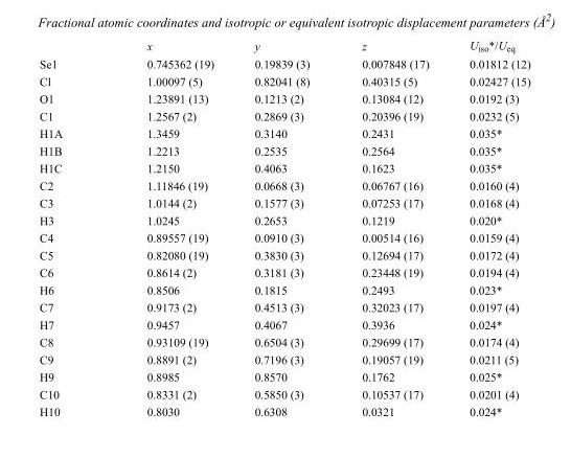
<table><thead><tr><td></td><td>x</td><td>y</td><td>z</td><td>U<sub>iso</sub>*/U<sub>eq</sub></td></tr></thead><tbody><tr><td>Se1</td><td>0.745362 (19)</td><td>0.19839 (3)</td><td>0.007848 (17)</td><td>0.01812 (12)</td></tr><tr><td>Cl</td><td>1.00097 (5)</td><td>0.82041 (8)</td><td>0.40315 (5)</td><td>0.02427 (15)</td></tr><tr><td>O1</td><td>1.23891 (13)</td><td>0.1213 (2)</td><td>0.13084 (12)</td><td>0.0192 (3)</td></tr><tr><td>C1</td><td>1.2567 (2)</td><td>0.2869 (3)</td><td>0.20396 (19)</td><td>0.0232 (5)</td></tr><tr><td>H1A</td><td>1.3459</td><td>0.3140</td><td>0.2431</td><td>0.035*</td></tr><tr><td>H1B</td><td>1.2213</td><td>0.2535</td><td>0.2564</td><td>0.035*</td></tr><tr><td>H1C</td><td>1.2150</td><td>0.4063</td><td>0.1623</td><td>0.035*</td></tr><tr><td>C2</td><td>1.11846 (19)</td><td>0.0668 (3)</td><td>0.06767 (16)</td><td>0.0160 (4)</td></tr><tr><td>C3</td><td>1.0144 (2)</td><td>0.1577 (3)</td><td>0.07253 (17)</td><td>0.0168 (4)</td></tr><tr><td>H3</td><td>1.0245</td><td>0.2653</td><td>0.1219</td><td>0.020*</td></tr><tr><td>C4</td><td>0.89557 (19)</td><td>0.0910 (3)</td><td>0.00514 (16)</td><td>0.0159 (4)</td></tr><tr><td>C5</td><td>0.82080 (19)</td><td>0.3830 (3)</td><td>0.12694 (17)</td><td>0.0172 (4)</td></tr><tr><td>C6</td><td>0.8614 (2)</td><td>0.3181 (3)</td><td>0.23448 (19)</td><td>0.0194 (4)</td></tr><tr><td>H6</td><td>0.8506</td><td>0.1815</td><td>0.2493</td><td>0.023*</td></tr><tr><td>C7</td><td>0.9173 (2)</td><td>0.4513 (3)</td><td>0.32023 (17)</td><td>0.0197 (4)</td></tr><tr><td>H7</td><td>0.9457</td><td>0.4067</td><td>0.3936</td><td>0.024*</td></tr><tr><td>C8</td><td>0.93109 (19)</td><td>0.6504 (3)</td><td>0.29699 (17)</td><td>0.0174 (4)</td></tr><tr><td>C9</td><td>0.8891 (2)</td><td>0.7196 (3)</td><td>0.19057 (19)</td><td>0.0211 (5)</td></tr><tr><td>H9</td><td>0.8985</td><td>0.8570</td><td>0.1762</td><td>0.025*</td></tr><tr><td>C10</td><td>0.8331 (2)</td><td>0.5850 (3)</td><td>0.10537 (17)</td><td>0.0201 (4)</td></tr><tr><td>H10</td><td>0.8030</td><td>0.6308</td><td>0.0321</td><td>0.024*</td></tr></tbody></table>